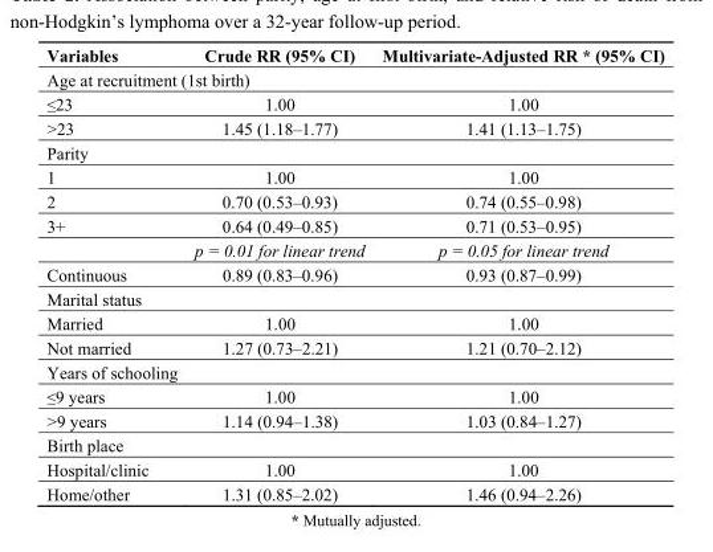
<table><thead><tr><td>Variables</td><td>Crude RR (95% CI)</td><td>Multivariate-Adjusted RR * (95% CI)</td></tr></thead><tbody><tr><td colspan="3">Age at recruitment (1st birth)</td></tr><tr><td>≤23</td><td>1.00</td><td>1.00</td></tr><tr><td>&gt;23</td><td>1.45 (1.18–1.77)</td><td>1.41 (1.13–1.75)</td></tr><tr><td colspan="3">Parity</td></tr><tr><td>1</td><td>1.00</td><td>1.00</td></tr><tr><td>2</td><td>0.70 (0.53–0.93)</td><td>0.74 (0.55–0.98)</td></tr><tr><td rowspan="2">3+</td><td>0.64 (0.49–0.85)</td><td>0.71 (0.53–0.95)</td></tr><tr><td>p = 0.01 for linear trend</td><td>p = 0.05 for linear trend</td></tr><tr><td>Continuous</td><td>0.89 (0.83–0.96)</td><td>0.93 (0.87–0.99)</td></tr><tr><td colspan="3">Marital status</td></tr><tr><td>Married</td><td>1.00</td><td>1.00</td></tr><tr><td>Not married</td><td>1.27 (0.73–2.21)</td><td>1.21 (0.70–2.12)</td></tr><tr><td colspan="3">Years of schooling</td></tr><tr><td>≤9 years</td><td>1.00</td><td>1.00</td></tr><tr><td>&gt;9 years</td><td>1.14 (0.94–1.38)</td><td>1.03 (0.84–1.27)</td></tr><tr><td colspan="3">Birth place</td></tr><tr><td>Hospital/clinic</td><td>1.00</td><td>1.00</td></tr><tr><td>Home/other</td><td>1.31 (0.85–2.02)</td><td>1.46 (0.94–2.26)</td></tr></tbody></table>